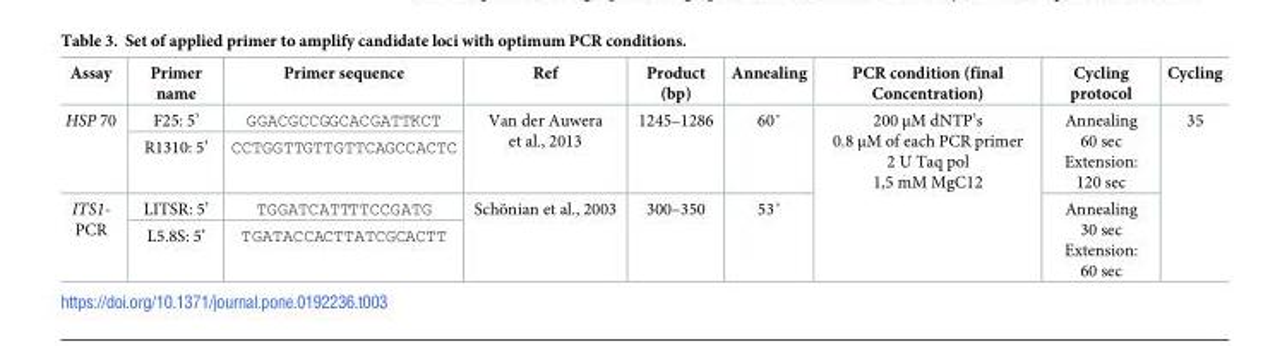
<table><thead><tr><td>Assay</td><td>Primer name</td><td>Primer sequence</td><td>Ref</td><td>Product (bp)</td><td>Annealing</td><td>PCR condition (final Concentration)</td><td>Cycling protocol</td><td>Cycling</td></tr></thead><tbody><tr><td rowspan="2">HSP 70</td><td>F25: 5’</td><td>GGACGCCGGCACGATTKCT</td><td rowspan="2">Van der Auwera et al., 2013</td><td rowspan="2">1245–1286</td><td rowspan="2">60˚</td><td rowspan="4">200 μM dNTP’s 0.8 μM of each PCR primer 2 U Taq pol 1,5 mM MgC12</td><td rowspan="2">Annealing 60 sec Extension: 120 sec</td><td rowspan="4">35</td></tr><tr><td>R1310: 5’</td><td>CCTGGTTGTTGTTCAGCCACTC</td></tr><tr><td rowspan="2">ITS1- PCR</td><td>LITSR: 5’</td><td>TGGATCATTTTCCGATG</td><td rowspan="2">Scho¨nian et al., 2003</td><td rowspan="2">300–350</td><td rowspan="2">53˚</td><td rowspan="2">Annealing 30 sec Extension: 60 sec</td></tr><tr><td>L5.8S: 5’</td><td>TGATACCACTTATCGCACTT</td></tr></tbody></table>